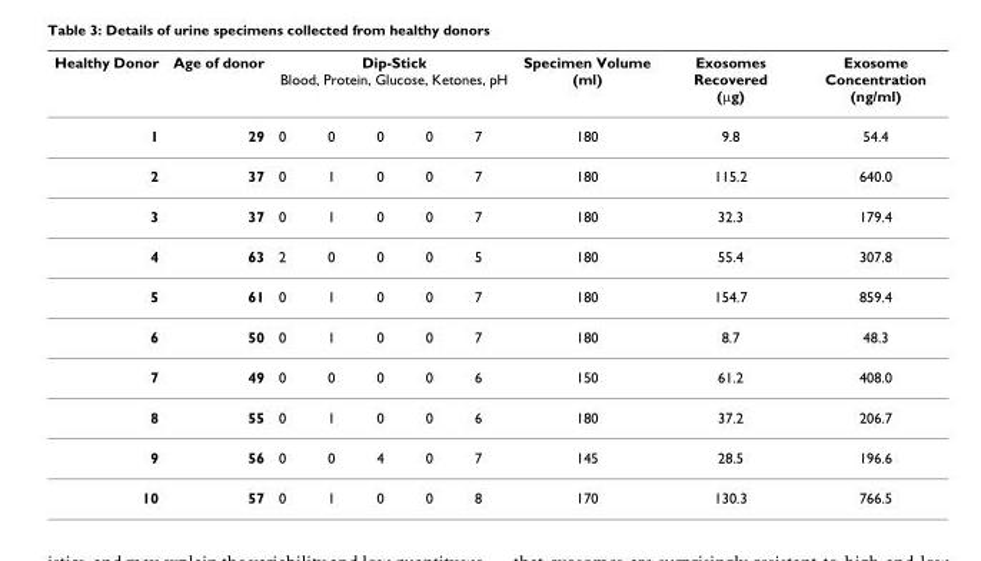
<table><thead><tr><td rowspan="2">Healthy Donor 1</td><td rowspan="2">Age of donor 29</td><td colspan="5">Dip-Stick Blood, Protein, Glucose, Ketones, pH</td><td rowspan="2">Specimen Volume (ml) 180</td><td rowspan="2">Exosomes Recovered (μg) 9.8</td><td rowspan="2">Exosome Concentration (ng/ml) 54.4</td></tr><tr><td>0</td><td>0</td><td>0</td><td>0</td><td>7</td></tr></thead><tbody><tr><td>2</td><td>37</td><td>0</td><td>1</td><td>0</td><td>0</td><td>7</td><td>180</td><td>115.2</td><td>640.0</td></tr><tr><td>3</td><td>37</td><td>0</td><td>1</td><td>0</td><td>0</td><td>7</td><td>180</td><td>32.3</td><td>179.4</td></tr><tr><td>4</td><td>63</td><td>2</td><td>0</td><td>0</td><td>0</td><td>5</td><td>180</td><td>55.4</td><td>307.8</td></tr><tr><td>5</td><td>61</td><td>0</td><td>1</td><td>0</td><td>0</td><td>7</td><td>180</td><td>154.7</td><td>859.4</td></tr><tr><td>6</td><td>50</td><td>0</td><td>1</td><td>0</td><td>0</td><td>7</td><td>180</td><td>8.7</td><td>48.3</td></tr><tr><td>7</td><td>49</td><td>0</td><td>0</td><td>0</td><td>0</td><td>6</td><td>150</td><td>61.2</td><td>408.0</td></tr><tr><td>8</td><td>55</td><td>0</td><td>1</td><td>0</td><td>0</td><td>6</td><td>180</td><td>37.2</td><td>206.7</td></tr><tr><td>9</td><td>56</td><td>0</td><td>0</td><td>4</td><td>0</td><td>7</td><td>145</td><td>28.5</td><td>196.6</td></tr><tr><td>10</td><td>57</td><td>0</td><td>1</td><td>0</td><td>0</td><td>8</td><td>170</td><td>130.3</td><td>766.5</td></tr></tbody></table>